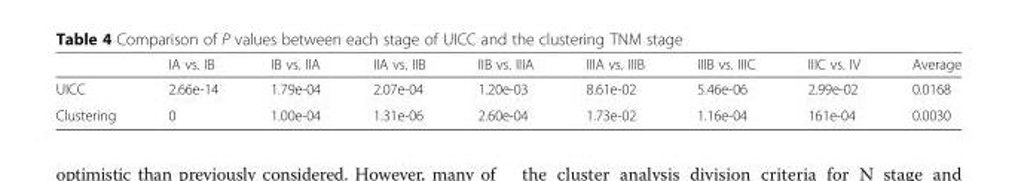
<table><thead><tr><td></td><td>IA vs. IB</td><td>IB vs. IIA</td><td>IIA vs. IIB</td><td>IIB vs. IIIA</td><td>IIIA vs. IIIB</td><td>IIIB vs. IIIC</td><td>IIIC vs. IV</td><td>Average</td></tr></thead><tbody><tr><td>UICC</td><td>2.66e-14</td><td>1.79e-04</td><td>2.07e-04</td><td>1.20e-03</td><td>8.61e-02</td><td>5.46e-06</td><td>2.99e-02</td><td>0.0168</td></tr><tr><td>Clustering</td><td>0</td><td>1.00e-04</td><td>1.31e-06</td><td>2.60e-04</td><td>1.73e-02</td><td>1.16e-04</td><td>161e-04</td><td>0.0030</td></tr></tbody></table>